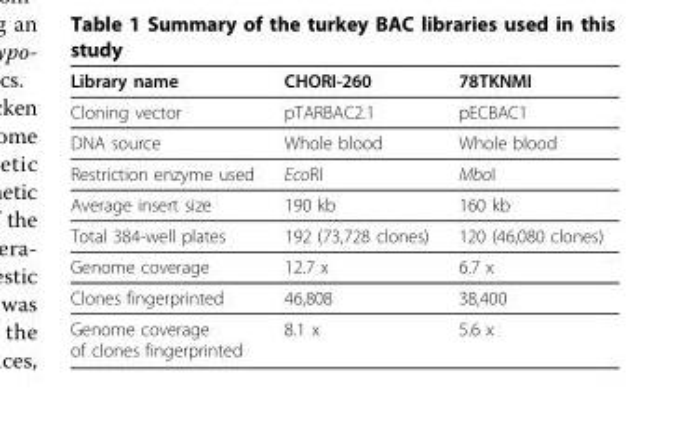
<table><thead><tr><td>Library name</td><td>CHORI-260</td><td>78TKNMI</td></tr></thead><tbody><tr><td>Cloning vector</td><td>pTARBAC2.1</td><td>pECBAC1</td></tr><tr><td>DNA source</td><td>Whole blood</td><td>Whole blood</td></tr><tr><td>Restriction enzyme used</td><td>EcoRI</td><td>MboI</td></tr><tr><td>Average insert size</td><td>190 kb</td><td>160 kb</td></tr><tr><td>Total 384-well plates</td><td>192 (73,728 clones)</td><td>120 (46,080 clones)</td></tr><tr><td>Genome coverage</td><td>12.7 x</td><td>6.7 x</td></tr><tr><td>Clones fingerprinted</td><td>46,808</td><td>38,400</td></tr><tr><td>Genome coverage of clones fingerprinted</td><td>8.1 x</td><td>5.6 x</td></tr></tbody></table>